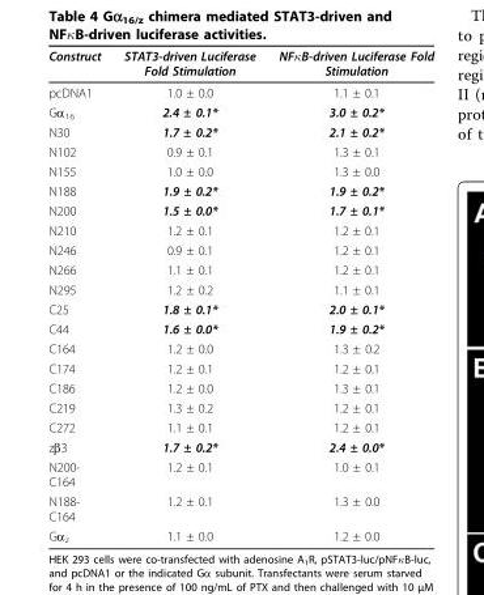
<table><thead><tr><td>Construct</td><td>STAT3-driven Luciferase Fold Stimulation</td><td>NFκB-driven Luciferase Fold Stimulation</td></tr></thead><tbody><tr><td>pcDNA1</td><td>1.0 ± 0.0</td><td>1.1 ± 0.1</td></tr><tr><td>Gα<sub>16</sub></td><td>2.4 ± 0.1*</td><td>3.0 ± 0.2*</td></tr><tr><td>N30</td><td>1.7 ± 0.2*</td><td>2.1 ± 0.2*</td></tr><tr><td>N102</td><td>0.9 ± 0.1</td><td>1.3 ± 0.1</td></tr><tr><td>N155</td><td>1.0 ± 0.0</td><td>1.3 ± 0.0</td></tr><tr><td>N188</td><td>1.9 ± 0.2*</td><td>1.9 ± 0.2*</td></tr><tr><td>N200</td><td>1.5 ± 0.0*</td><td>1.7 ± 0.1*</td></tr><tr><td>N210</td><td>1.2 ± 0.1</td><td>1.2 ± 0.1</td></tr><tr><td>N246</td><td>0.9 ± 0.1</td><td>1.2 ± 0.1</td></tr><tr><td>N266</td><td>1.1 ± 0.1</td><td>1.2 ± 0.1</td></tr><tr><td>N295</td><td>1.2 ± 0.2</td><td>1.1 ± 0.1</td></tr><tr><td>C25</td><td>1.8 ± 0.1*</td><td>2.0 ± 0.1*</td></tr><tr><td>C44</td><td>1.6 ± 0.0*</td><td>1.9 ± 0.2*</td></tr><tr><td>C164</td><td>1.2 ± 0.0</td><td>1.3 ± 0.2</td></tr><tr><td>C174</td><td>1.2 ± 0.1</td><td>1.2 ± 0.1</td></tr><tr><td>C186</td><td>1.2 ± 0.0</td><td>1.3 ± 0.1</td></tr><tr><td>C219</td><td>1.3 ± 0.2</td><td>1.2 ± 0.1</td></tr><tr><td>C272</td><td>1.1 ± 0.1</td><td>1.2 ± 0.1</td></tr><tr><td>zβ3</td><td>1.7 ± 0.2*</td><td>2.4 ± 0.0*</td></tr><tr><td>N200- C164</td><td>1.2 ± 0.1</td><td>1.0 ± 0.1</td></tr><tr><td>N188- C164</td><td>1.2 ± 0.1</td><td>1.3 ± 0.0</td></tr><tr><td>Gα<sub>z</sub></td><td>1.1 ± 0.0</td><td>1.2 ± 0.0</td></tr></tbody></table>